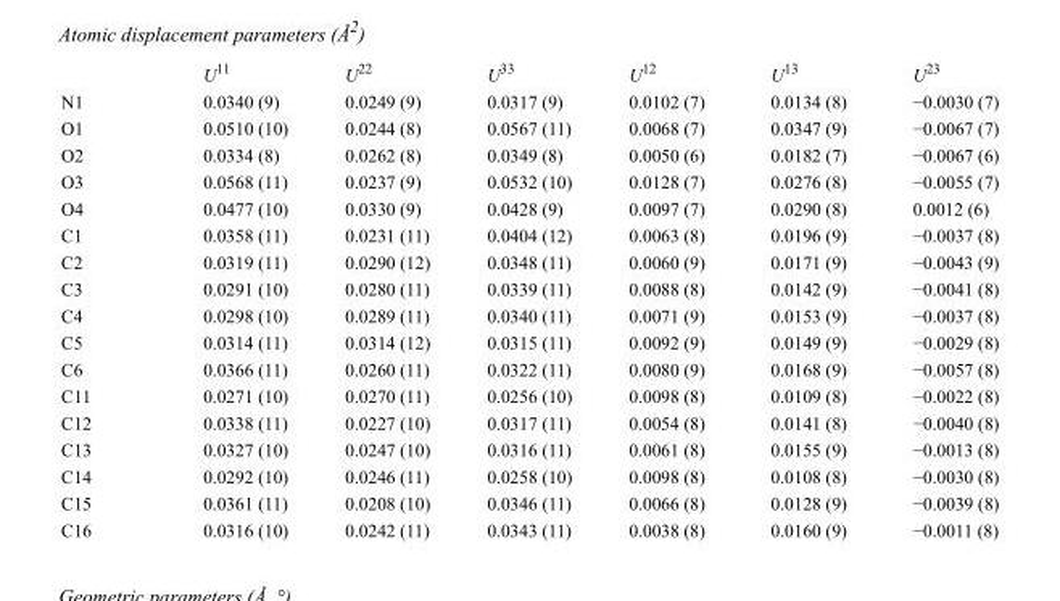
<table><thead><tr><td></td><td>U<sup>11</sup></td><td>U<sup>22</sup></td><td>U<sup>33</sup></td><td>U<sup>12</sup></td><td>U<sup>13</sup></td><td>U<sup>23</sup></td></tr></thead><tbody><tr><td>N1</td><td>0.0340 (9)</td><td>0.0249 (9)</td><td>0.0317 (9)</td><td>0.0102 (7)</td><td>0.0134 (8)</td><td>−0.0030 (7)</td></tr><tr><td>O1</td><td>0.0510 (10)</td><td>0.0244 (8)</td><td>0.0567 (11)</td><td>0.0068 (7)</td><td>0.0347 (9)</td><td>−0.0067 (7)</td></tr><tr><td>O2</td><td>0.0334 (8)</td><td>0.0262 (8)</td><td>0.0349 (8)</td><td>0.0050 (6)</td><td>0.0182 (7)</td><td>−0.0067 (6)</td></tr><tr><td>O3</td><td>0.0568 (11)</td><td>0.0237 (9)</td><td>0.0532 (10)</td><td>0.0128 (7)</td><td>0.0276 (8)</td><td>−0.0055 (7)</td></tr><tr><td>O4</td><td>0.0477 (10)</td><td>0.0330 (9)</td><td>0.0428 (9)</td><td>0.0097 (7)</td><td>0.0290 (8)</td><td>0.0012 (6)</td></tr><tr><td>C1</td><td>0.0358 (11)</td><td>0.0231 (11)</td><td>0.0404 (12)</td><td>0.0063 (8)</td><td>0.0196 (9)</td><td>−0.0037 (8)</td></tr><tr><td>C2</td><td>0.0319 (11)</td><td>0.0290 (12)</td><td>0.0348 (11)</td><td>0.0060 (9)</td><td>0.0171 (9)</td><td>−0.0043 (9)</td></tr><tr><td>C3</td><td>0.0291 (10)</td><td>0.0280 (11)</td><td>0.0339 (11)</td><td>0.0088 (8)</td><td>0.0142 (9)</td><td>−0.0041 (8)</td></tr><tr><td>C4</td><td>0.0298 (10)</td><td>0.0289 (11)</td><td>0.0340 (11)</td><td>0.0071 (9)</td><td>0.0153 (9)</td><td>−0.0037 (8)</td></tr><tr><td>C5</td><td>0.0314 (11)</td><td>0.0314 (12)</td><td>0.0315 (11)</td><td>0.0092 (9)</td><td>0.0149 (9)</td><td>−0.0029 (8)</td></tr><tr><td>C6</td><td>0.0366 (11)</td><td>0.0260 (11)</td><td>0.0322 (11)</td><td>0.0080 (9)</td><td>0.0168 (9)</td><td>−0.0057 (8)</td></tr><tr><td>C11</td><td>0.0271 (10)</td><td>0.0270 (11)</td><td>0.0256 (10)</td><td>0.0098 (8)</td><td>0.0109 (8)</td><td>−0.0022 (8)</td></tr><tr><td>C12</td><td>0.0338 (11)</td><td>0.0227 (10)</td><td>0.0317 (11)</td><td>0.0054 (8)</td><td>0.0141 (8)</td><td>−0.0040 (8)</td></tr><tr><td>C13</td><td>0.0327 (10)</td><td>0.0247 (10)</td><td>0.0316 (11)</td><td>0.0061 (8)</td><td>0.0155 (9)</td><td>−0.0013 (8)</td></tr><tr><td>C14</td><td>0.0292 (10)</td><td>0.0246 (11)</td><td>0.0258 (10)</td><td>0.0098 (8)</td><td>0.0108 (8)</td><td>−0.0030 (8)</td></tr><tr><td>C15</td><td>0.0361 (11)</td><td>0.0208 (10)</td><td>0.0346 (11)</td><td>0.0066 (8)</td><td>0.0128 (9)</td><td>−0.0039 (8)</td></tr><tr><td>C16</td><td>0.0316 (10)</td><td>0.0242 (11)</td><td>0.0343 (11)</td><td>0.0038 (8)</td><td>0.0160 (9)</td><td>−0.0011 (8)</td></tr></tbody></table>